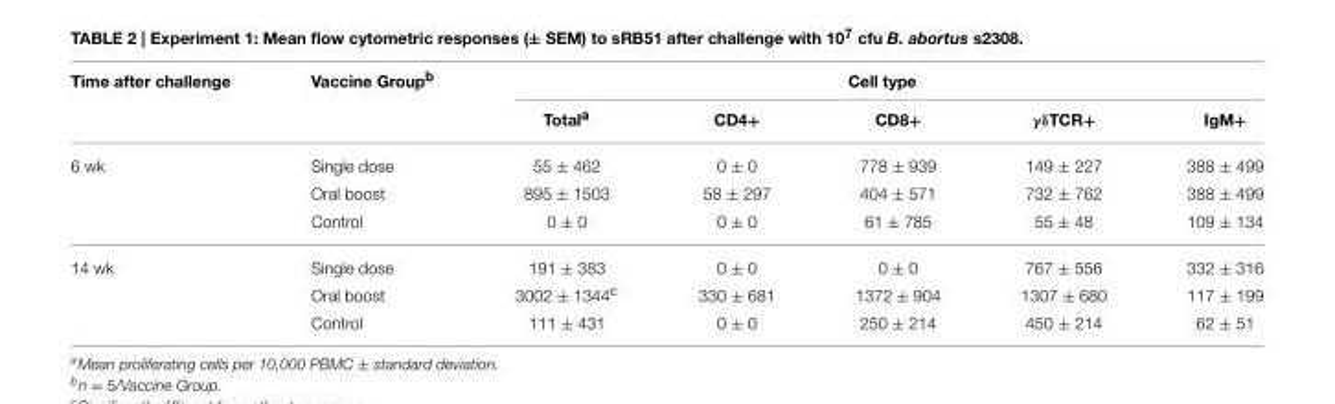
<table><thead><tr><td rowspan="2">Time after challenge</td><td rowspan="2">Vaccine Group<sup>b</sup></td><td colspan="5">Cell type</td></tr><tr><td>Total<sup>a</sup></td><td>CD4+</td><td>CD8+</td><td>γδTCR+</td><td>IgM+</td></tr></thead><tbody><tr><td rowspan="3">6 wk</td><td>Single dose</td><td>55 ± 462</td><td>0 ± 0</td><td>778 ± 939</td><td>149 ± 227</td><td>388 ± 499</td></tr><tr><td>Oral boost</td><td>895 ± 1503</td><td>58 ± 297</td><td>404 ± 571</td><td>732 ± 762</td><td>388 ± 499</td></tr><tr><td>Control</td><td>0 ± 0</td><td>0 ± 0</td><td>61 ± 785</td><td>55 ± 48</td><td>109 ± 134</td></tr><tr><td rowspan="3">14 wk</td><td>Single dose</td><td>191 ± 383</td><td>0 ± 0</td><td>0 ± 0</td><td>767 ± 556</td><td>332 ± 316</td></tr><tr><td>Oral boost</td><td>3002 ± 1344<sup>c</sup></td><td>330 ± 681</td><td>1372 ± 904</td><td>1307 ± 680</td><td>117 ± 199</td></tr><tr><td>Control</td><td>111 ± 431</td><td>0 ± 0</td><td>250 ± 214</td><td>450 ± 214</td><td>62 ± 51</td></tr></tbody></table>